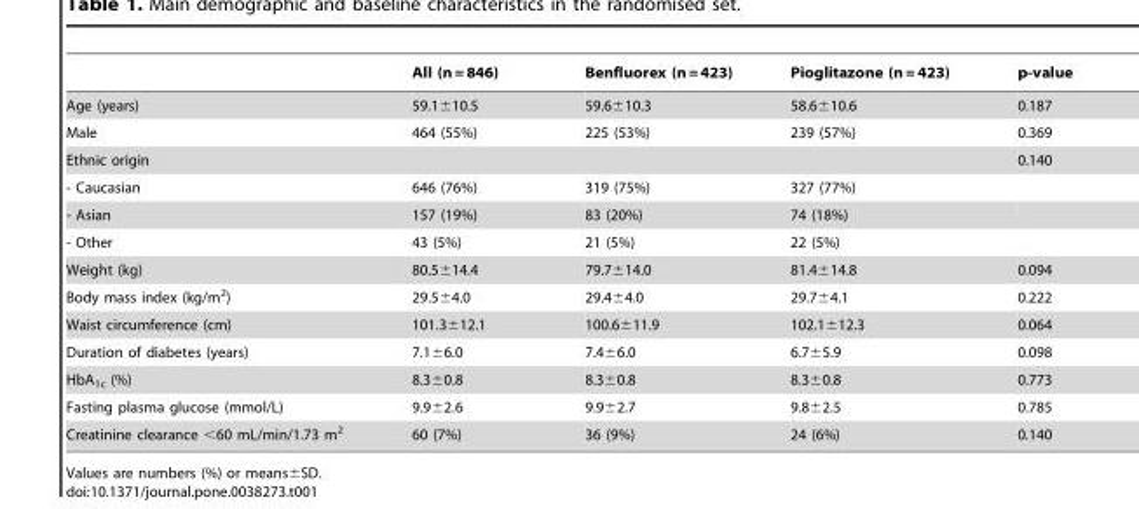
<table><thead><tr><td></td><td>All (n = 846)</td><td>Benfluorex (n = 423)</td><td>Pioglitazone (n = 423)</td><td>p-value</td></tr></thead><tbody><tr><td>Age (years)</td><td>59.1±10.5</td><td>59.6±10.3</td><td>58.6±10.6</td><td>0.187</td></tr><tr><td>Male</td><td>464 (55%)</td><td>225 (53%)</td><td>239 (57%)</td><td>0.369</td></tr><tr><td colspan="4">Ethnic origin</td><td>0.140</td></tr><tr><td>- Caucasian</td><td>646 (76%)</td><td>319 (75%)</td><td>327 (77%)</td><td></td></tr><tr><td>- Asian</td><td>157 (19%)</td><td>83 (20%)</td><td>74 (18%)</td><td></td></tr><tr><td>- Other</td><td>43 (5%)</td><td>21 (5%)</td><td>22 (5%)</td><td></td></tr><tr><td>Weight (kg)</td><td>80.5±14.4</td><td>79.7±14.0</td><td>81.4±14.8</td><td>0.094</td></tr><tr><td>Body mass index (kg/m<sup>2</sup>)</td><td>29.5±4.0</td><td>29.4±4.0</td><td>29.7±4.1</td><td>0.222</td></tr><tr><td>Waist circumference (cm)</td><td>101.3±12.1</td><td>100.6±11.9</td><td>102.1±12.3</td><td>0.064</td></tr><tr><td>Duration of diabetes (years)</td><td>7.1±6.0</td><td>7.4±6.0</td><td>6.7±5.9</td><td>0.098</td></tr><tr><td>HbA<sub>1c</sub> (%)</td><td>8.3±0.8</td><td>8.3±0.8</td><td>8.3±0.8</td><td>0.773</td></tr><tr><td>Fasting plasma glucose (mmol/L)</td><td>9.9±2.6</td><td>9.9±2.7</td><td>9.8±2.5</td><td>0.785</td></tr><tr><td>Creatinine clearance &lt;60 mL/min/1.73 m<sup>2</sup></td><td>60 (7%)</td><td>36 (9%)</td><td>24 (6%)</td><td>0.140</td></tr></tbody></table>